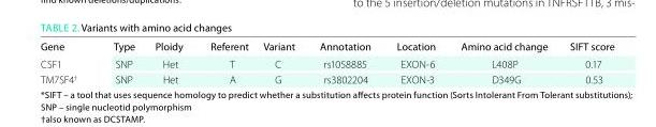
<table><thead><tr><td>Gene</td><td>type</td><td>Ploidy</td><td>referent</td><td>Variant</td><td>annotation</td><td>Location</td><td>amino acid change</td><td>SiFt score</td></tr></thead><tbody><tr><td>CSF1</td><td>SNP</td><td>Het</td><td>T</td><td>C</td><td>rs1058885</td><td>EXON-6</td><td>L408P</td><td>0.17</td></tr><tr><td>TM7SF4<sup>†</sup></td><td>SNP</td><td>Het</td><td>A</td><td>G</td><td>rs3802204</td><td>EXON-3</td><td>D349G</td><td>0.53</td></tr></tbody></table>